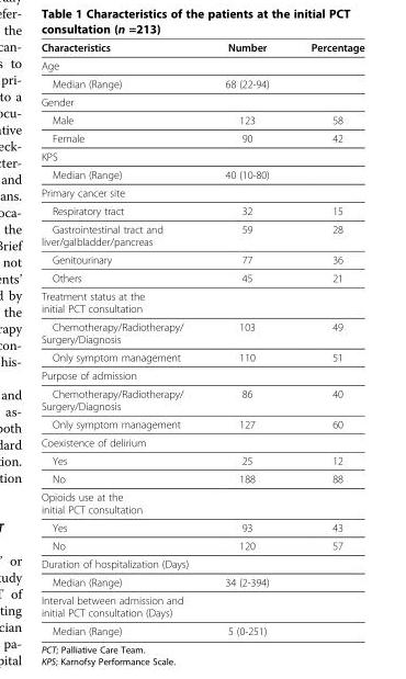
<table><thead><tr><td>Characteristics</td><td>Number</td><td>Percentage</td></tr></thead><tbody><tr><td colspan="3">Age</td></tr><tr><td>Median (Range)</td><td>68 (22-94)</td><td></td></tr><tr><td colspan="3">Gender</td></tr><tr><td>Male</td><td>123</td><td>58</td></tr><tr><td>Female</td><td>90</td><td>42</td></tr><tr><td colspan="3">KPS</td></tr><tr><td>Median (Range)</td><td>40 (10-80)</td><td></td></tr><tr><td colspan="3">Primary cancer site</td></tr><tr><td>Respiratory tract</td><td>32</td><td>15</td></tr><tr><td>Gastrointestinal tract and liver/galbladder/pancreas</td><td>59</td><td>28</td></tr><tr><td>Genitourinary</td><td>77</td><td>36</td></tr><tr><td>Others</td><td>45</td><td>21</td></tr><tr><td colspan="3">Treatment status at the initial PCT consultation</td></tr><tr><td>Chemotherapy/Radiotherapy/ Surgery/Diagnosis</td><td>103</td><td>49</td></tr><tr><td>Only symptom management</td><td>110</td><td>51</td></tr><tr><td colspan="3">Purpose of admission</td></tr><tr><td>Chemotherapy/Radiotherapy/ Surgery/Diagnosis</td><td>86</td><td>40</td></tr><tr><td>Only symptom management</td><td>127</td><td>60</td></tr><tr><td colspan="3">Coexistence of delirium</td></tr><tr><td>Yes</td><td>25</td><td>12</td></tr><tr><td>No</td><td>188</td><td>88</td></tr><tr><td colspan="3">Opioids use at the initial PCT consultation</td></tr><tr><td>Yes</td><td>93</td><td>43</td></tr><tr><td>No</td><td>120</td><td>57</td></tr><tr><td colspan="3">Duration of hospitalization (Days)</td></tr><tr><td>Median (Range)</td><td>34 (2-394)</td><td></td></tr><tr><td colspan="3">Interval between admission and initial PCT consultation (Days)</td></tr><tr><td>Median (Range)</td><td>5 (0-251)</td><td></td></tr></tbody></table>